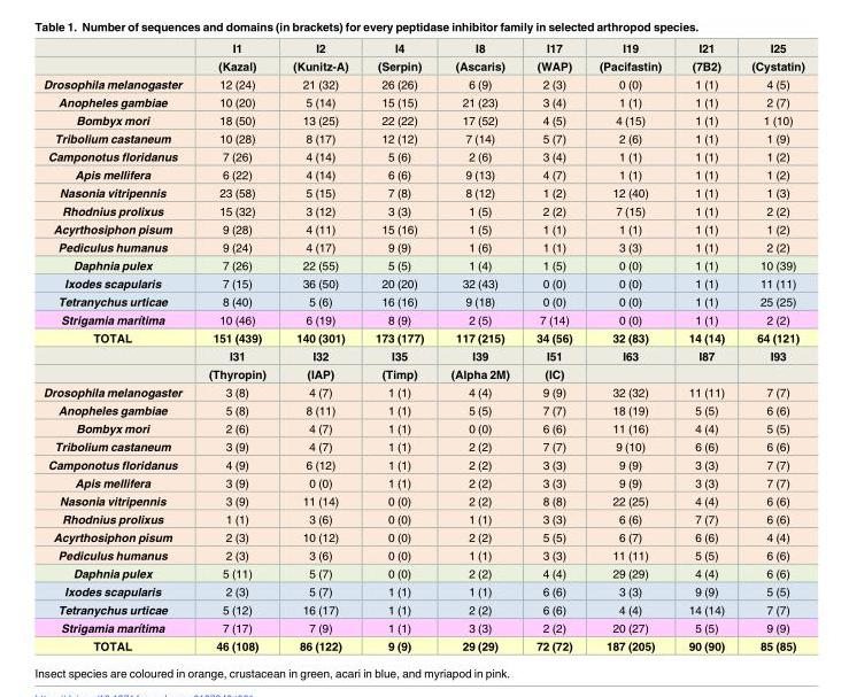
<table><thead><tr><td></td><td>I1</td><td>I2</td><td>I4</td><td>I8</td><td>I17</td><td>I19</td><td>I21</td><td>I25</td></tr></thead><tbody><tr><td></td><td>(Kazal)</td><td>(Kunitz-A)</td><td>(Serpin)</td><td>(Ascaris)</td><td>(WAP)</td><td>(Pacifastin)</td><td>(7B2)</td><td>(Cystatin)</td></tr><tr><td>Drosophila melanogaster</td><td>12 (24)</td><td>21 (32)</td><td>26 (26)</td><td>6 (9)</td><td>2 (3)</td><td>0 (0)</td><td>1 (1)</td><td>4 (5)</td></tr><tr><td>Anopheles gambiae</td><td>10 (20)</td><td>5 (14)</td><td>15 (15)</td><td>21 (23)</td><td>3 (4)</td><td>1 (1)</td><td>1 (1)</td><td>2 (7)</td></tr><tr><td>Bombyx mori</td><td>18 (50)</td><td>13 (25)</td><td>22 (22)</td><td>17 (52)</td><td>4 (5)</td><td>4 (15)</td><td>1 (1)</td><td>1 (10)</td></tr><tr><td>Tribolium castaneum</td><td>10 (28)</td><td>8 (17)</td><td>12 (12)</td><td>7 (14)</td><td>5 (7)</td><td>2 (6)</td><td>1 (1)</td><td>1 (9)</td></tr><tr><td>Camponotus floridanus</td><td>7 (26)</td><td>4 (14)</td><td>5 (6)</td><td>2 (6)</td><td>3 (4)</td><td>1 (1)</td><td>1 (1)</td><td>1 (2)</td></tr><tr><td>Apis mellifera</td><td>6 (22)</td><td>4 (14)</td><td>6 (6)</td><td>9 (13)</td><td>4 (7)</td><td>1 (1)</td><td>1 (1)</td><td>1 (2)</td></tr><tr><td>Nasonia vitripennis</td><td>23 (58)</td><td>5 (15)</td><td>7 (8)</td><td>8 (12)</td><td>1 (2)</td><td>12 (40)</td><td>1 (1)</td><td>1 (3)</td></tr><tr><td>Rhodnius prolixus</td><td>15 (32)</td><td>3 (12)</td><td>3 (3)</td><td>1 (5)</td><td>2 (2)</td><td>7 (15)</td><td>1 (1)</td><td>2 (2)</td></tr><tr><td>Acyrthosiphon pisum</td><td>9 (28)</td><td>4 (11)</td><td>15 (16)</td><td>1 (5)</td><td>1 (1)</td><td>1 (1)</td><td>1 (1)</td><td>1 (2)</td></tr><tr><td>Pediculus humanus</td><td>9 (24)</td><td>4 (17)</td><td>9 (9)</td><td>1 (6)</td><td>1 (1)</td><td>3 (3)</td><td>1 (1)</td><td>2 (2)</td></tr><tr><td>Daphnia pulex</td><td>7 (26)</td><td>22 (55)</td><td>5 (5)</td><td>1 (4)</td><td>1 (5)</td><td>0 (0)</td><td>1 (1)</td><td>10 (39)</td></tr><tr><td>Ixodes scapularis</td><td>7 (15)</td><td>36 (50)</td><td>20 (20)</td><td>32 (43)</td><td>0 (0)</td><td>0 (0)</td><td>1 (1)</td><td>11 (11)</td></tr><tr><td>Tetranychus urticae</td><td>8 (40)</td><td>5 (6)</td><td>16 (16)</td><td>9 (18)</td><td>0 (0)</td><td>0 (0)</td><td>1 (1)</td><td>25 (25)</td></tr><tr><td>Strigamia marı´tima</td><td>10 (46)</td><td>6 (19)</td><td>8 (9)</td><td>2 (5)</td><td>7 (14)</td><td>0 (0)</td><td>1 (1)</td><td>2 (2)</td></tr><tr><td rowspan="3">TOTAL</td><td>151 (439)</td><td>140 (301)</td><td>173 (177)</td><td>117 (215)</td><td>34 (56)</td><td>32 (83)</td><td>14 (14)</td><td>64 (121)</td></tr><tr><td>I31</td><td>I32</td><td>I35</td><td>I39</td><td>I51</td><td>I63</td><td>I87</td><td>I93</td></tr><tr><td>(Thyropin)</td><td>(IAP)</td><td>(Timp)</td><td>(Alpha 2M)</td><td>(IC)</td><td></td><td></td><td></td></tr><tr><td>Drosophila melanogaster</td><td>3 (8)</td><td>4 (7)</td><td>1 (1)</td><td>4 (4)</td><td>9 (9)</td><td>32 (32)</td><td>11 (11)</td><td>7 (7)</td></tr><tr><td>Anopheles gambiae</td><td>5 (8)</td><td>8 (11)</td><td>1 (1)</td><td>5 (5)</td><td>7 (7)</td><td>18 (19)</td><td>5 (5)</td><td>6 (6)</td></tr><tr><td>Bombyx mori</td><td>2 (6)</td><td>4 (7)</td><td>1 (1)</td><td>0 (0)</td><td>6 (6)</td><td>11 (16)</td><td>4 (4)</td><td>5 (5)</td></tr><tr><td>Tribolium castaneum</td><td>3 (9)</td><td>4 (7)</td><td>1 (1)</td><td>2 (2)</td><td>7 (7)</td><td>9 (10)</td><td>6 (6)</td><td>6 (6)</td></tr><tr><td>Camponotus floridanus</td><td>4 (9)</td><td>6 (12)</td><td>1 (1)</td><td>2 (2)</td><td>3 (3)</td><td>9 (9)</td><td>3 (3)</td><td>7 (7)</td></tr><tr><td>Apis mellifera</td><td>3 (9)</td><td>0 (0)</td><td>1 (1)</td><td>2 (2)</td><td>3 (3)</td><td>9 (9)</td><td>3 (3)</td><td>7 (7)</td></tr><tr><td>Nasonia vitripennis</td><td>3 (9)</td><td>11 (14)</td><td>0 (0)</td><td>2 (2)</td><td>8 (8)</td><td>22 (25)</td><td>4 (4)</td><td>6 (6)</td></tr><tr><td>Rhodnius prolixus</td><td>1 (1)</td><td>3 (6)</td><td>0 (0)</td><td>1 (1)</td><td>3 (3)</td><td>6 (6)</td><td>7 (7)</td><td>6 (6)</td></tr><tr><td>Acyrthosiphon pisum</td><td>2 (3)</td><td>10 (12)</td><td>0 (0)</td><td>2 (2)</td><td>5 (5)</td><td>6 (7)</td><td>6 (6)</td><td>4 (4)</td></tr><tr><td>Pediculus humanus</td><td>2 (3)</td><td>3 (6)</td><td>0 (0)</td><td>1 (1)</td><td>3 (3)</td><td>11 (11)</td><td>5 (5)</td><td>6 (6)</td></tr><tr><td>Daphnia pulex</td><td>5 (11)</td><td>5 (7)</td><td>0 (0)</td><td>2 (2)</td><td>4 (4)</td><td>29 (29)</td><td>4 (4)</td><td>6 (6)</td></tr><tr><td>Ixodes scapularis</td><td>2 (3)</td><td>5 (7)</td><td>1 (1)</td><td>1 (1)</td><td>6 (6)</td><td>3 (3)</td><td>9 (9)</td><td>5 (5)</td></tr><tr><td>Tetranychus urticae</td><td>5 (12)</td><td>16 (17)</td><td>1 (1)</td><td>2 (2)</td><td>6 (6)</td><td>4 (4)</td><td>14 (14)</td><td>7 (7)</td></tr><tr><td>Strigamia marı´tima</td><td>7 (17)</td><td>7 (9)</td><td>1 (1)</td><td>3 (3)</td><td>2 (2)</td><td>20 (27)</td><td>5 (5)</td><td>9 (9)</td></tr><tr><td>TOTAL</td><td>46 (108)</td><td>86 (122)</td><td>9 (9)</td><td>29 (29)</td><td>72 (72)</td><td>187 (205)</td><td>90 (90)</td><td>85 (85)</td></tr></tbody></table>